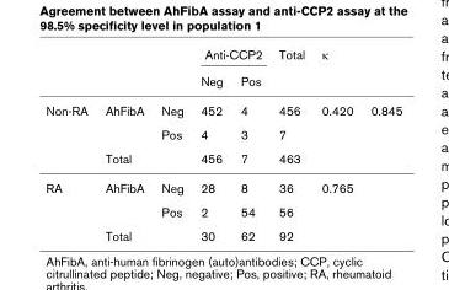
<table><thead><tr><td rowspan="2"></td><td rowspan="2"></td><td rowspan="2"></td><td colspan="2">Anti-CCP2</td><td rowspan="2">Total</td><td colspan="2">κ</td></tr><tr><td>Neg</td><td>Pos</td><td></td><td></td></tr></thead><tbody><tr><td rowspan="3">Non-RA</td><td>AhFibA</td><td>Neg</td><td>452</td><td>4</td><td>456</td><td>0.420</td><td>0.845</td></tr><tr><td></td><td>Pos</td><td>4</td><td>3</td><td>7</td><td></td><td></td></tr><tr><td>Total</td><td></td><td>456</td><td>7</td><td>463</td><td></td><td></td></tr><tr><td rowspan="3">RA</td><td>AhFibA</td><td>Neg</td><td>28</td><td>8</td><td>36</td><td>0.765</td><td></td></tr><tr><td></td><td>Pos</td><td>2</td><td>54</td><td>56</td><td></td><td></td></tr><tr><td>Total</td><td></td><td>30</td><td>62</td><td>92</td><td></td><td></td></tr></tbody></table>